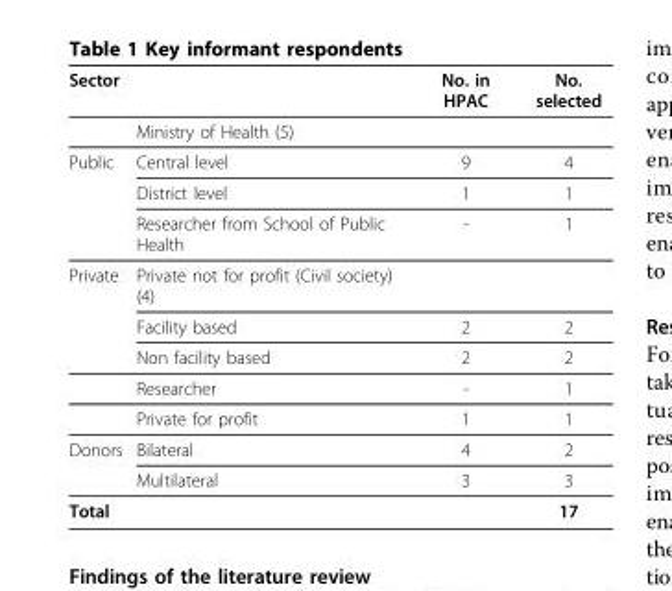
<table><thead><tr><td>Sector</td><td></td><td>No. in HPAC</td><td>No. selected</td></tr></thead><tbody><tr><td></td><td>Ministry of Health (5)</td><td></td><td></td></tr><tr><td rowspan="3">Public</td><td>Central level</td><td>9</td><td>4</td></tr><tr><td>District level</td><td>1</td><td>1</td></tr><tr><td>Researcher from School of Public Health</td><td>-</td><td>1</td></tr><tr><td rowspan="5">Private</td><td>Private not for profit (Civil society) (4)</td><td></td><td></td></tr><tr><td>Facility based</td><td>2</td><td>2</td></tr><tr><td>Non facility based</td><td>2</td><td>2</td></tr><tr><td>Researcher</td><td>-</td><td>1</td></tr><tr><td>Private for profit</td><td>1</td><td>1</td></tr><tr><td rowspan="2">Donors</td><td>Bilateral</td><td>4</td><td>2</td></tr><tr><td>Multilateral</td><td>3</td><td>3</td></tr><tr><td>Total</td><td></td><td></td><td>17</td></tr></tbody></table>